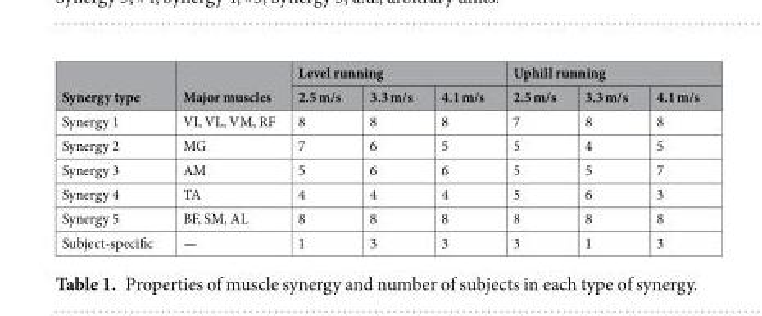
<table><thead><tr><td rowspan="2">Synergy type</td><td rowspan="2">Major muscles</td><td colspan="3">Level running</td><td colspan="3">Uphill running</td></tr><tr><td>2.5 m/s</td><td>3.3 m/s</td><td>4.1 m/s</td><td>2.5 m/s</td><td>3.3 m/s</td><td>4.1 m/s</td></tr></thead><tbody><tr><td>Synergy 1</td><td>VI, VL, VM, RF</td><td>8</td><td>8</td><td>8</td><td>7</td><td>8</td><td>8</td></tr><tr><td>Synergy 2</td><td>MG</td><td>7</td><td>6</td><td>5</td><td>5</td><td>4</td><td>5</td></tr><tr><td>Synergy 3</td><td>AM</td><td>5</td><td>6</td><td>6</td><td>5</td><td>5</td><td>7</td></tr><tr><td>Synergy 4</td><td>TA</td><td>4</td><td>4</td><td>4</td><td>5</td><td>6</td><td>3</td></tr><tr><td>Synergy 5</td><td>BF, SM, AL</td><td>8</td><td>8</td><td>8</td><td>8</td><td>8</td><td>8</td></tr><tr><td>Subject-specific</td><td>—</td><td>1</td><td>3</td><td>3</td><td>3</td><td>1</td><td>3</td></tr></tbody></table>